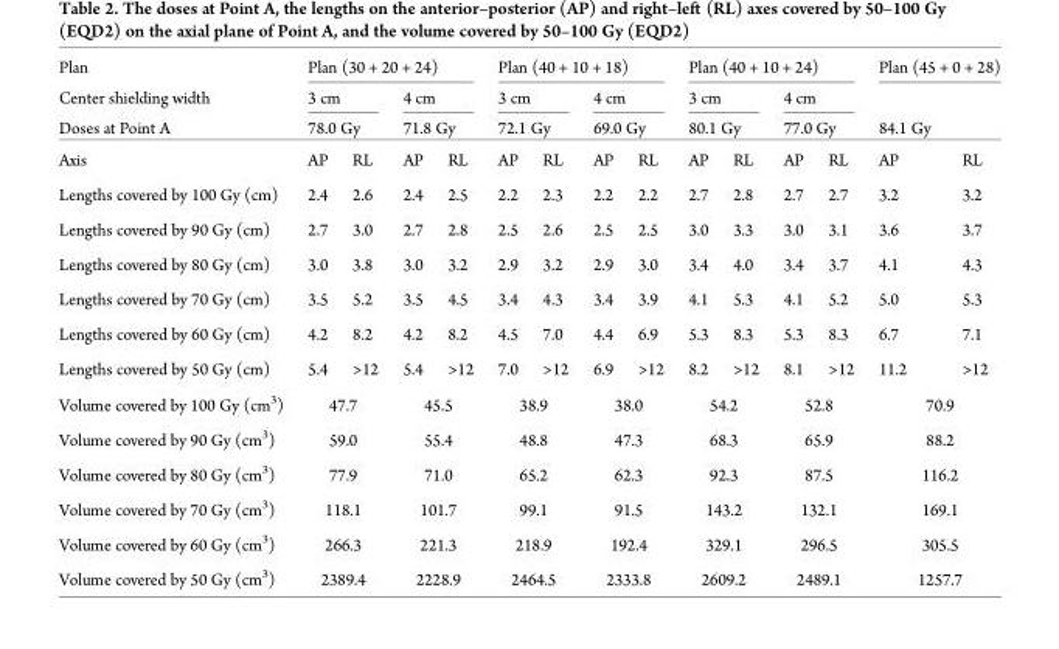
<table><thead><tr><td rowspan="4">Plan Center shielding width Doses at Point A Axis</td><td colspan="4">Plan (30 + 20 + 24)</td><td colspan="4">Plan (40 + 10 + 18)</td><td colspan="4">Plan (40 + 10 + 24)</td><td colspan="2">Plan (45 + 0 + 28)</td></tr><tr><td rowspan="2" colspan="2">3 cm 78.0 Gy</td><td rowspan="2" colspan="2">4 cm 71.8 Gy</td><td rowspan="2" colspan="2">3 cm 72.1 Gy</td><td rowspan="2" colspan="2">4 cm 69.0 Gy</td><td rowspan="2" colspan="2">3 cm 80.1 Gy</td><td rowspan="2" colspan="2">4 cm 77.0 Gy</td><td></td><td></td></tr><tr><td colspan="2">84.1 Gy</td></tr><tr><td>AP</td><td>RL</td><td>AP</td><td>RL</td><td>AP</td><td>RL</td><td>AP</td><td>RL</td><td>AP</td><td>RL</td><td>AP</td><td>RL</td><td>AP</td><td>RL</td></tr></thead><tbody><tr><td>Lengths covered by 100 Gy (cm)</td><td>2.4</td><td>2.6</td><td>2.4</td><td>2.5</td><td>2.2</td><td>2.3</td><td>2.2</td><td>2.2</td><td>2.7</td><td>2.8</td><td>2.7</td><td>2.7</td><td>3.2</td><td>3.2</td></tr><tr><td>Lengths covered by 90 Gy (cm)</td><td>2.7</td><td>3.0</td><td>2.7</td><td>2.8</td><td>2.5</td><td>2.6</td><td>2.5</td><td>2.5</td><td>3.0</td><td>3.3</td><td>3.0</td><td>3.1</td><td>3.6</td><td>3.7</td></tr><tr><td>Lengths covered by 80 Gy (cm)</td><td>3.0</td><td>3.8</td><td>3.0</td><td>3.2</td><td>2.9</td><td>3.2</td><td>2.9</td><td>3.0</td><td>3.4</td><td>4.0</td><td>3.4</td><td>3.7</td><td>4.1</td><td>4.3</td></tr><tr><td>Lengths covered by 70 Gy (cm)</td><td>3.5</td><td>5.2</td><td>3.5</td><td>4.5</td><td>3.4</td><td>4.3</td><td>3.4</td><td>3.9</td><td>4.1</td><td>5.3</td><td>4.1</td><td>5.2</td><td>5.0</td><td>5.3</td></tr><tr><td>Lengths covered by 60 Gy (cm)</td><td>4.2</td><td>8.2</td><td>4.2</td><td>8.2</td><td>4.5</td><td>7.0</td><td>4.4</td><td>6.9</td><td>5.3</td><td>8.3</td><td>5.3</td><td>8.3</td><td>6.7</td><td>7.1</td></tr><tr><td>Lengths covered by 50 Gy (cm)</td><td>5.4</td><td>&gt;12</td><td>5.4</td><td>&gt;12</td><td>7.0</td><td>&gt;12</td><td>6.9</td><td>&gt;12</td><td>8.2</td><td>&gt;12</td><td>8.1</td><td>&gt;12</td><td>11.2</td><td>&gt;12</td></tr><tr><td>Volume covered by 100 Gy (cm<sup>3</sup>)</td><td colspan="2">47.7</td><td colspan="2">45.5</td><td colspan="2">38.9</td><td colspan="2">38.0</td><td colspan="2">54.2</td><td colspan="2">52.8</td><td colspan="2">70.9</td></tr><tr><td>Volume covered by 90 Gy (cm<sup>3</sup>)</td><td colspan="2">59.0</td><td colspan="2">55.4</td><td colspan="2">48.8</td><td colspan="2">47.3</td><td colspan="2">68.3</td><td colspan="2">65.9</td><td colspan="2">88.2</td></tr><tr><td>Volume covered by 80 Gy (cm<sup>3</sup>)</td><td colspan="2">77.9</td><td colspan="2">71.0</td><td colspan="2">65.2</td><td colspan="2">62.3</td><td colspan="2">92.3</td><td colspan="2">87.5</td><td colspan="2">116.2</td></tr><tr><td>Volume covered by 70 Gy (cm<sup>3</sup>)</td><td colspan="2">118.1</td><td colspan="2">101.7</td><td colspan="2">99.1</td><td colspan="2">91.5</td><td colspan="2">143.2</td><td colspan="2">132.1</td><td colspan="2">169.1</td></tr><tr><td>Volume covered by 60 Gy (cm<sup>3</sup>)</td><td colspan="2">266.3</td><td colspan="2">221.3</td><td colspan="2">218.9</td><td colspan="2">192.4</td><td colspan="2">329.1</td><td colspan="2">296.5</td><td colspan="2">305.5</td></tr><tr><td>Volume covered by 50 Gy (cm<sup>3</sup>)</td><td colspan="2">2389.4</td><td colspan="2">2228.9</td><td colspan="2">2464.5</td><td colspan="2">2333.8</td><td colspan="2">2609.2</td><td colspan="2">2489.1</td><td colspan="2">1257.7</td></tr></tbody></table>